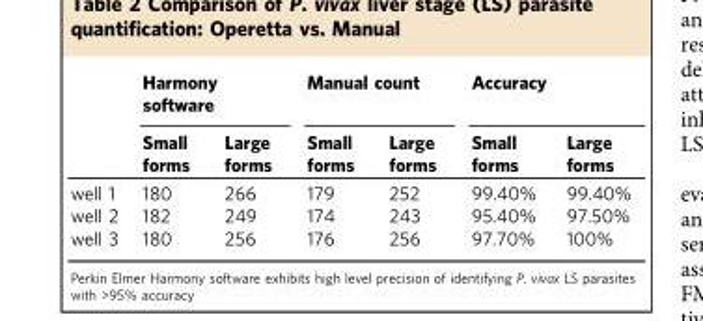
<table><thead><tr><td rowspan="2"></td><td colspan="2">Harmony software</td><td colspan="2">Manual count</td><td colspan="2">Accuracy</td></tr><tr><td>Small forms</td><td>Large forms</td><td>Small forms</td><td>Large forms</td><td>Small forms</td><td>Large forms</td></tr></thead><tbody><tr><td>well 1</td><td>180</td><td>266</td><td>179</td><td>252</td><td>99.40%</td><td>99.40%</td></tr><tr><td>well 2</td><td>182</td><td>249</td><td>174</td><td>243</td><td>95.40%</td><td>97.50%</td></tr><tr><td>well 3</td><td>180</td><td>256</td><td>176</td><td>256</td><td>97.70%</td><td>100%</td></tr></tbody></table>